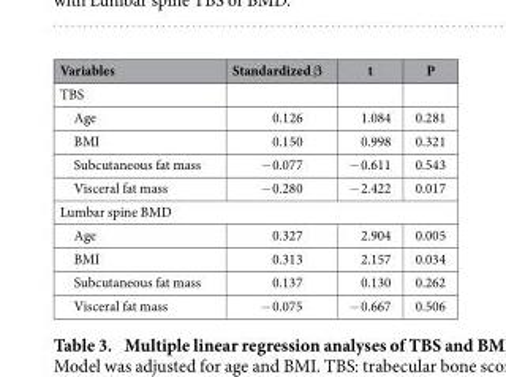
<table><thead><tr><td>Variables</td><td>Standardized β</td><td>t</td><td>P</td></tr></thead><tbody><tr><td colspan="4">TBS</td></tr><tr><td>Age</td><td>0.126</td><td>1.084</td><td>0.281</td></tr><tr><td>BMI</td><td>0.150</td><td>0.998</td><td>0.321</td></tr><tr><td>Subcutaneous fat mass</td><td>− 0.077</td><td>− 0.611</td><td>0.543</td></tr><tr><td>Visceral fat mass</td><td>− 0.280</td><td>− 2.422</td><td>0.017</td></tr><tr><td colspan="4">Lumbar spine BMD</td></tr><tr><td>Age</td><td>0.327</td><td>2.904</td><td>0.005</td></tr><tr><td>BMI</td><td>0.313</td><td>2.157</td><td>0.034</td></tr><tr><td>Subcutaneous fat mass</td><td>0.137</td><td>0.130</td><td>0.262</td></tr><tr><td>Visceral fat mass</td><td>− 0.075</td><td>− 0.667</td><td>0.506</td></tr></tbody></table>